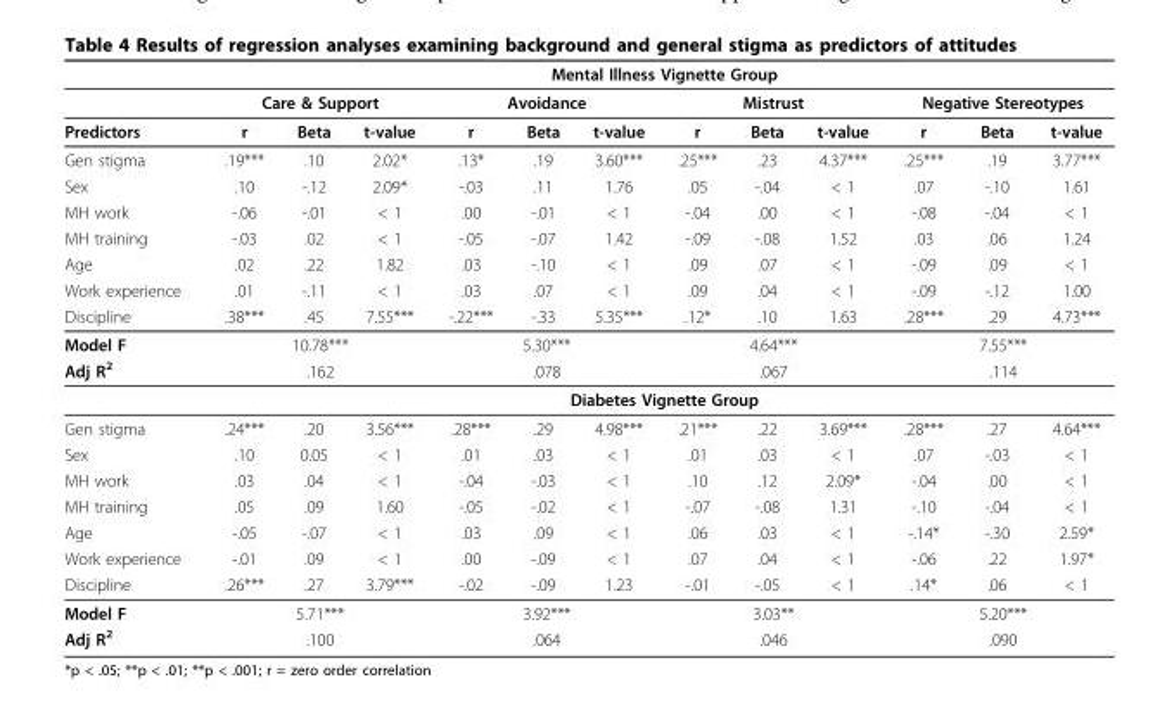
<table><thead><tr><td rowspan="3">Predictors</td><td colspan="12">Mental Illness Vignette Group</td></tr><tr><td colspan="3">Care &amp; Support</td><td colspan="3">Avoidance</td><td colspan="3">Mistrust</td><td colspan="3">Negative Stereotypes</td></tr><tr><td>r</td><td>Beta</td><td>t-value</td><td>r</td><td>Beta</td><td>t-value</td><td>r</td><td>Beta</td><td>t-value</td><td>r</td><td>Beta</td><td>t-value</td></tr></thead><tbody><tr><td>Gen stigma</td><td>.19***</td><td>.10</td><td>2.02*</td><td>.13*</td><td>.19</td><td>3.60***</td><td>.25***</td><td>.23</td><td>4.37***</td><td>.25***</td><td>.19</td><td>3.77***</td></tr><tr><td>Sex</td><td>.10</td><td>-.12</td><td>2.09*</td><td>-.03</td><td>.11</td><td>1.76</td><td>.05</td><td>-.04</td><td>&lt; 1</td><td>.07</td><td>-.10</td><td>1.61</td></tr><tr><td>MH work</td><td>-.06</td><td>-.01</td><td>&lt; 1</td><td>.00</td><td>-.01</td><td>&lt; 1</td><td>-.04</td><td>.00</td><td>&lt; 1</td><td>-.08</td><td>-.04</td><td>&lt; 1</td></tr><tr><td>MH training</td><td>-.03</td><td>.02</td><td>&lt; 1</td><td>-.05</td><td>-.07</td><td>1.42</td><td>-.09</td><td>-.08</td><td>1.52</td><td>.03</td><td>.06</td><td>1.24</td></tr><tr><td>Age</td><td>.02</td><td>.22</td><td>1.82</td><td>.03</td><td>-.10</td><td>&lt; 1</td><td>.09</td><td>.07</td><td>&lt; 1</td><td>-.09</td><td>.09</td><td>&lt; 1</td></tr><tr><td>Work experience</td><td>.01</td><td>-.11</td><td>&lt; 1</td><td>.03</td><td>.07</td><td>&lt; 1</td><td>.09</td><td>.04</td><td>&lt; 1</td><td>-.09</td><td>-.12</td><td>1.00</td></tr><tr><td>Discipline</td><td>.38***</td><td>.45</td><td>7.55***</td><td>-.22***</td><td>-.33</td><td>5.35***</td><td>.12*</td><td>.10</td><td>1.63</td><td>.28***</td><td>.29</td><td>4.73***</td></tr><tr><td>Model F</td><td colspan="3">10.78***</td><td colspan="3">5.30***</td><td colspan="3">4.64***</td><td colspan="3">7.55***</td></tr><tr><td rowspan="2">Adj R<sup>2</sup></td><td colspan="3">.162</td><td colspan="3">.078</td><td colspan="3">.067</td><td colspan="3">.114</td></tr><tr><td colspan="12">Diabetes Vignette Group</td></tr><tr><td>Gen stigma</td><td>.24***</td><td>.20</td><td>3.56***</td><td>.28***</td><td>.29</td><td>4.98***</td><td>.21***</td><td>.22</td><td>3.69***</td><td>.28***</td><td>.27</td><td>4.64***</td></tr><tr><td>Sex</td><td>.10</td><td>0.05</td><td>&lt; 1</td><td>.01</td><td>.03</td><td>&lt; 1</td><td>.01</td><td>.03</td><td>&lt; 1</td><td>.07</td><td>-.03</td><td>&lt; 1</td></tr><tr><td>MH work</td><td>.03</td><td>.04</td><td>&lt; 1</td><td>-.04</td><td>-.03</td><td>&lt; 1</td><td>.10</td><td>.12</td><td>2.09*</td><td>-.04</td><td>.00</td><td>&lt; 1</td></tr><tr><td>MH training</td><td>.05</td><td>.09</td><td>1.60</td><td>-.05</td><td>-.02</td><td>&lt; 1</td><td>-.07</td><td>-.08</td><td>1.31</td><td>-.10</td><td>-.04</td><td>&lt; 1</td></tr><tr><td>Age</td><td>-.05</td><td>-.07</td><td>&lt; 1</td><td>.03</td><td>.09</td><td>&lt; 1</td><td>.06</td><td>.03</td><td>&lt; 1</td><td>-.14*</td><td>-.30</td><td>2.59*</td></tr><tr><td>Work experience</td><td>-.01</td><td>.09</td><td>&lt; 1</td><td>.00</td><td>-.09</td><td>&lt; 1</td><td>.07</td><td>.04</td><td>&lt; 1</td><td>-.06</td><td>.22</td><td>1.97*</td></tr><tr><td>Discipline</td><td>.26***</td><td>.27</td><td>3.79***</td><td>-.02</td><td>-.09</td><td>1.23</td><td>-.01</td><td>-.05</td><td>&lt; 1</td><td>.14*</td><td>.06</td><td>&lt; 1</td></tr><tr><td>Model F</td><td colspan="3">5.71***</td><td colspan="3">3.92***</td><td colspan="3">3.03**</td><td colspan="3">5.20***</td></tr><tr><td>Adj R<sup>2</sup></td><td colspan="3">.100</td><td colspan="3">.064</td><td colspan="3">.046</td><td colspan="3">.090</td></tr></tbody></table>